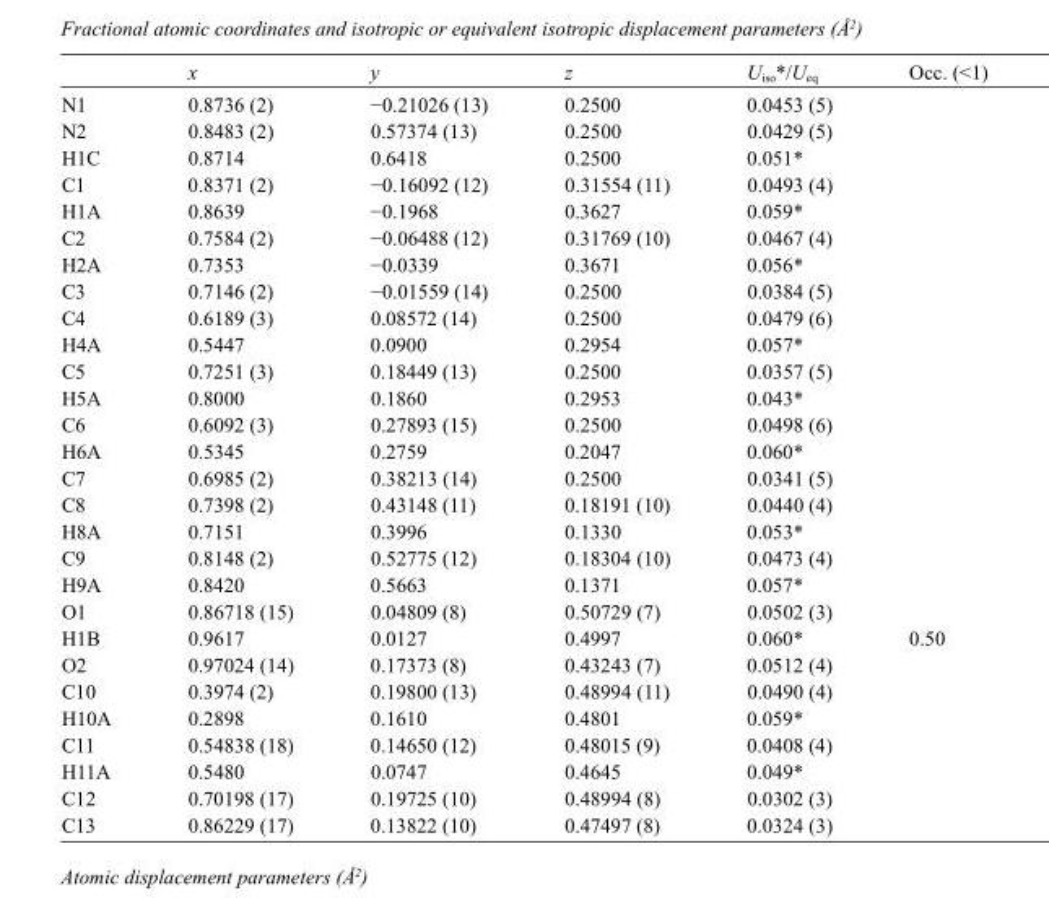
<table><thead><tr><td></td><td>x</td><td>y</td><td>z</td><td>U<sub>iso</sub>*/U<sub>eq</sub></td><td>Occ. (&lt;1)</td></tr></thead><tbody><tr><td>N1</td><td>0.8736 (2)</td><td>−0.21026 (13)</td><td>0.2500</td><td>0.0453 (5)</td><td></td></tr><tr><td>N2</td><td>0.8483 (2)</td><td>0.57374 (13)</td><td>0.2500</td><td>0.0429 (5)</td><td></td></tr><tr><td>H1C</td><td>0.8714</td><td>0.6418</td><td>0.2500</td><td>0.051*</td><td></td></tr><tr><td>C1</td><td>0.8371 (2)</td><td>−0.16092 (12)</td><td>0.31554 (11)</td><td>0.0493 (4)</td><td></td></tr><tr><td>H1A</td><td>0.8639</td><td>−0.1968</td><td>0.3627</td><td>0.059*</td><td></td></tr><tr><td>C2</td><td>0.7584 (2)</td><td>−0.06488 (12)</td><td>0.31769 (10)</td><td>0.0467 (4)</td><td></td></tr><tr><td>H2A</td><td>0.7353</td><td>−0.0339</td><td>0.3671</td><td>0.056*</td><td></td></tr><tr><td>C3</td><td>0.7146 (2)</td><td>−0.01559 (14)</td><td>0.2500</td><td>0.0384 (5)</td><td></td></tr><tr><td>C4</td><td>0.6189 (3)</td><td>0.08572 (14)</td><td>0.2500</td><td>0.0479 (6)</td><td></td></tr><tr><td>H4A</td><td>0.5447</td><td>0.0900</td><td>0.2954</td><td>0.057*</td><td></td></tr><tr><td>C5</td><td>0.7251 (3)</td><td>0.18449 (13)</td><td>0.2500</td><td>0.0357 (5)</td><td></td></tr><tr><td>H5A</td><td>0.8000</td><td>0.1860</td><td>0.2953</td><td>0.043*</td><td></td></tr><tr><td>C6</td><td>0.6092 (3)</td><td>0.27893 (15)</td><td>0.2500</td><td>0.0498 (6)</td><td></td></tr><tr><td>H6A</td><td>0.5345</td><td>0.2759</td><td>0.2047</td><td>0.060*</td><td></td></tr><tr><td>C7</td><td>0.6985 (2)</td><td>0.38213 (14)</td><td>0.2500</td><td>0.0341 (5)</td><td></td></tr><tr><td>C8</td><td>0.7398 (2)</td><td>0.43148 (11)</td><td>0.18191 (10)</td><td>0.0440 (4)</td><td></td></tr><tr><td>H8A</td><td>0.7151</td><td>0.3996</td><td>0.1330</td><td>0.053*</td><td></td></tr><tr><td>C9</td><td>0.8148 (2)</td><td>0.52775 (12)</td><td>0.18304 (10)</td><td>0.0473 (4)</td><td></td></tr><tr><td>H9A</td><td>0.8420</td><td>0.5663</td><td>0.1371</td><td>0.057*</td><td></td></tr><tr><td>O1</td><td>0.86718 (15)</td><td>0.04809 (8)</td><td>0.50729 (7)</td><td>0.0502 (3)</td><td></td></tr><tr><td>H1B</td><td>0.9617</td><td>0.0127</td><td>0.4997</td><td>0.060*</td><td>0.50</td></tr><tr><td>O2</td><td>0.97024 (14)</td><td>0.17373 (8)</td><td>0.43243 (7)</td><td>0.0512 (4)</td><td></td></tr><tr><td>C10</td><td>0.3974 (2)</td><td>0.19800 (13)</td><td>0.48994 (11)</td><td>0.0490 (4)</td><td></td></tr><tr><td>H10A</td><td>0.2898</td><td>0.1610</td><td>0.4801</td><td>0.059*</td><td></td></tr><tr><td>C11</td><td>0.54838 (18)</td><td>0.14650 (12)</td><td>0.48015 (9)</td><td>0.0408 (4)</td><td></td></tr><tr><td>H11A</td><td>0.5480</td><td>0.0747</td><td>0.4645</td><td>0.049*</td><td></td></tr><tr><td>C12</td><td>0.70198 (17)</td><td>0.19725 (10)</td><td>0.48994 (8)</td><td>0.0302 (3)</td><td></td></tr><tr><td>C13</td><td>0.86229 (17)</td><td>0.13822 (10)</td><td>0.47497 (8)</td><td>0.0324 (3)</td><td></td></tr></tbody></table>